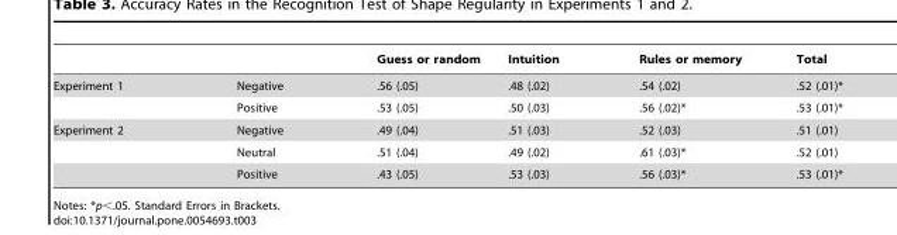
<table><thead><tr><td></td><td></td><td>Guess or random</td><td>Intuition</td><td>Rules or memory</td><td>Total</td></tr></thead><tbody><tr><td rowspan="2">Experiment 1</td><td>Negative</td><td>.56 (.05)</td><td>.48 (.02)</td><td>.54 (.02)</td><td>.52 (.01)*</td></tr><tr><td>Positive</td><td>.53 (.05)</td><td>.50 (.03)</td><td>.56 (.02)*</td><td>.53 (.01)*</td></tr><tr><td rowspan="3">Experiment 2</td><td>Negative</td><td>.49 (.04)</td><td>.51 (.03)</td><td>.52 (.03)</td><td>.51 (.01)</td></tr><tr><td>Neutral</td><td>.51 (.04)</td><td>.49 (.02)</td><td>.61 (.03)*</td><td>.52 (.01)</td></tr><tr><td>Positive</td><td>.43 (.05)</td><td>.53 (.03)</td><td>.56 (.03)*</td><td>.53 (.01)*</td></tr></tbody></table>